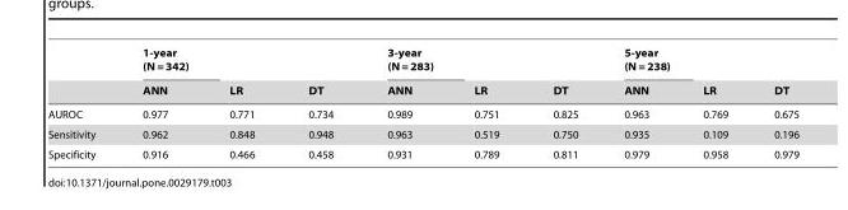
<table><thead><tr><td rowspan="2"></td><td rowspan="2">1-year (N = 342) ANN</td><td rowspan="2">LR</td><td rowspan="2">DT</td><td rowspan="2">3-year (N = 283) ANN</td><td rowspan="2">LR</td><td rowspan="2">DT</td><td rowspan="2">5-year (N = 238) ANN</td><td rowspan="2">LR</td><td rowspan="2">DT</td></tr><tr></tr></thead><tbody><tr><td>AUROC</td><td>0.977</td><td>0.771</td><td>0.734</td><td>0.989</td><td>0.751</td><td>0.825</td><td>0.963</td><td>0.769</td><td>0.675</td></tr><tr><td>Sensitivity</td><td>0.962</td><td>0.848</td><td>0.948</td><td>0.963</td><td>0.519</td><td>0.750</td><td>0.935</td><td>0.109</td><td>0.196</td></tr><tr><td>Specificity</td><td>0.916</td><td>0.466</td><td>0.458</td><td>0.931</td><td>0.789</td><td>0.811</td><td>0.979</td><td>0.958</td><td>0.979</td></tr></tbody></table>